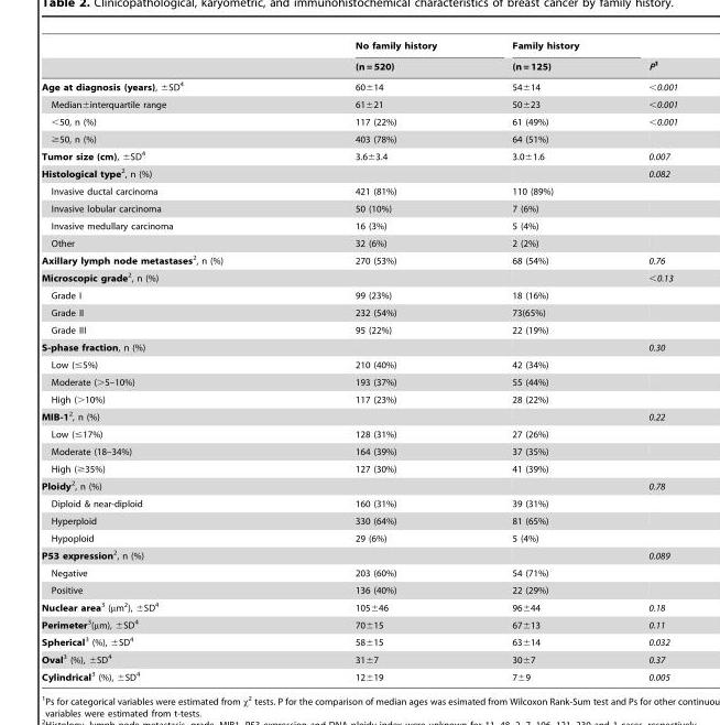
<table><thead><tr><td rowspan="2"></td><td rowspan="2">No family history (n = 520)</td><td rowspan="2">Family history (n = 125)</td><td rowspan="2">P1</td></tr><tr></tr></thead><tbody><tr><td>Age at diagnosis (years), ±SD<sup>4</sup></td><td>60±14</td><td>54±14</td><td>&lt;0.001</td></tr><tr><td>Median±interquartile range</td><td>61±21</td><td>50±23</td><td>&lt;0.001</td></tr><tr><td>&lt;50, n (%)</td><td>117 (22%)</td><td>61 (49%)</td><td>&lt;0.001</td></tr><tr><td>≥50, n (%)</td><td>403 (78%)</td><td>64 (51%)</td><td></td></tr><tr><td>Tumor size (cm), ±SD<sup>4</sup></td><td>3.6±3.4</td><td>3.0±1.6</td><td>0.007</td></tr><tr><td>Histological type2, n (%)</td><td></td><td></td><td>0.082</td></tr><tr><td>Invasive ductal carcinoma</td><td>421 (81%)</td><td>110 (89%)</td><td></td></tr><tr><td>Invasive lobular carcinoma</td><td>50 (10%)</td><td>7 (6%)</td><td></td></tr><tr><td>Invasive medullary carcinoma</td><td>16 (3%)</td><td>5 (4%)</td><td></td></tr><tr><td>Other</td><td>32 (6%)</td><td>2 (2%)</td><td></td></tr><tr><td>Axillary lymph node metastases2, n (%)</td><td>270 (53%)</td><td>68 (54%)</td><td>0.76</td></tr><tr><td>Microscopic grade2, n (%)</td><td></td><td></td><td>&lt;0.13</td></tr><tr><td>Grade I</td><td>99 (23%)</td><td>18 (16%)</td><td></td></tr><tr><td>Grade II</td><td>232 (54%)</td><td>73(65%)</td><td></td></tr><tr><td>Grade III</td><td>95 (22%)</td><td>22 (19%)</td><td></td></tr><tr><td>S-phase fraction, n (%)</td><td></td><td></td><td>0.30</td></tr><tr><td>Low (≤5%)</td><td>210 (40%)</td><td>42 (34%)</td><td></td></tr><tr><td>Moderate (&gt;5–10%)</td><td>193 (37%)</td><td>55 (44%)</td><td></td></tr><tr><td>High (&gt;10%)</td><td>117 (23%)</td><td>28 (22%)</td><td></td></tr><tr><td>MIB-12, n (%)</td><td></td><td></td><td>0.22</td></tr><tr><td>Low (≤17%)</td><td>128 (31%)</td><td>27 (26%)</td><td></td></tr><tr><td>Moderate (18–34%)</td><td>164 (39%)</td><td>37 (35%)</td><td></td></tr><tr><td>High (≥35%)</td><td>127 (30%)</td><td>41 (39%)</td><td></td></tr><tr><td>Ploidy2, n (%)</td><td></td><td></td><td>0.78</td></tr><tr><td>Diploid &amp; near-diploid</td><td>160 (31%)</td><td>39 (31%)</td><td></td></tr><tr><td>Hyperploid</td><td>330 (64%)</td><td>81 (65%)</td><td></td></tr><tr><td>Hypoploid</td><td>29 (6%)</td><td>5 (4%)</td><td></td></tr><tr><td>P53 expression2, n (%)</td><td></td><td></td><td>0.089</td></tr><tr><td>Negative</td><td>203 (60%)</td><td>54 (71%)</td><td></td></tr><tr><td>Positive</td><td>136 (40%)</td><td>22 (29%)</td><td></td></tr><tr><td>Nuclear area3 (µm<sup>2</sup>), ±SD<sup>4</sup></td><td>105±46</td><td>96±44</td><td>0.18</td></tr><tr><td>Perimeter3(µm), ±SD<sup>4</sup></td><td>70±15</td><td>67±13</td><td>0.11</td></tr><tr><td>Spherical3 (%), ±SD<sup>4</sup></td><td>58±15</td><td>63±14</td><td>0.032</td></tr><tr><td>Oval3 (%), ±SD<sup>4</sup></td><td>31±7</td><td>30±7</td><td>0.37</td></tr><tr><td>Cylindrical3 (%), ±SD<sup>4</sup></td><td>12±19</td><td>7±9</td><td>0.005</td></tr></tbody></table>